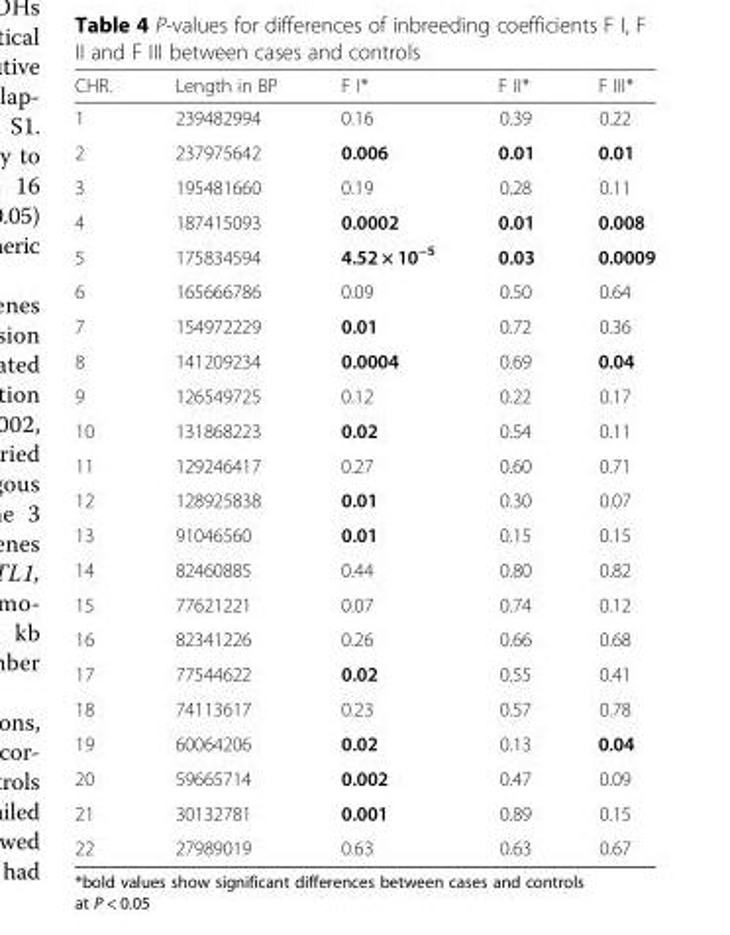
<table><thead><tr><td>CHR.</td><td>Length in BP</td><td>F I*</td><td>F II*</td><td>F III*</td></tr></thead><tbody><tr><td>1</td><td>239482994</td><td>0.16</td><td>0.39</td><td>0.22</td></tr><tr><td>2</td><td>237975642</td><td>0.006</td><td>0.01</td><td>0.01</td></tr><tr><td>3</td><td>195481660</td><td>0.19</td><td>0.28</td><td>0.11</td></tr><tr><td>4</td><td>187415093</td><td>0.0002</td><td>0.01</td><td>0.008</td></tr><tr><td>5</td><td>175834594</td><td>4.52 × 10<sup>−5</sup></td><td>0.03</td><td>0.0009</td></tr><tr><td>6</td><td>165666786</td><td>0.09</td><td>0.50</td><td>0.64</td></tr><tr><td>7</td><td>154972229</td><td>0.01</td><td>0.72</td><td>0.36</td></tr><tr><td>8</td><td>141209234</td><td>0.0004</td><td>0.69</td><td>0.04</td></tr><tr><td>9</td><td>126549725</td><td>0.12</td><td>0.22</td><td>0.17</td></tr><tr><td>10</td><td>131868223</td><td>0.02</td><td>0.54</td><td>0.11</td></tr><tr><td>11</td><td>129246417</td><td>0.27</td><td>0.60</td><td>0.71</td></tr><tr><td>12</td><td>128925838</td><td>0.01</td><td>0.30</td><td>0.07</td></tr><tr><td>13</td><td>91046560</td><td>0.01</td><td>0.15</td><td>0.15</td></tr><tr><td>14</td><td>82460885</td><td>0.44</td><td>0.80</td><td>0.82</td></tr><tr><td>15</td><td>77621221</td><td>0.07</td><td>0.74</td><td>0.12</td></tr><tr><td>16</td><td>82341226</td><td>0.26</td><td>0.66</td><td>0.68</td></tr><tr><td>17</td><td>77544622</td><td>0.02</td><td>0.55</td><td>0.41</td></tr><tr><td>18</td><td>74113617</td><td>0.23</td><td>0.57</td><td>0.78</td></tr><tr><td>19</td><td>60064206</td><td>0.02</td><td>0.13</td><td>0.04</td></tr><tr><td>20</td><td>59665714</td><td>0.002</td><td>0.47</td><td>0.09</td></tr><tr><td>21</td><td>30132781</td><td>0.001</td><td>0.89</td><td>0.15</td></tr><tr><td>22</td><td>27989019</td><td>0.63</td><td>0.63</td><td>0.67</td></tr></tbody></table>